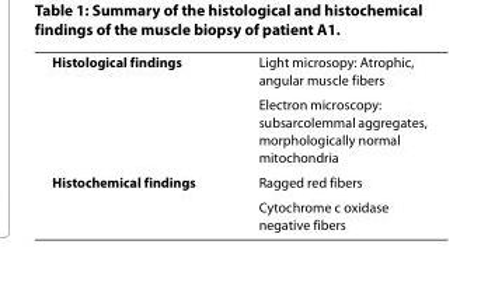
<table><tbody><tr><td rowspan="2">Histological findings</td><td>Light microsopy: Atrophic, angular muscle fibers</td></tr><tr><td>Electron microscopy: subsarcolemmal aggregates, morphologically normal mitochondria</td></tr><tr><td rowspan="2">Histochemical findings</td><td>Ragged red fibers</td></tr><tr><td>Cytochrome c oxidase negative fibers</td></tr></tbody></table>